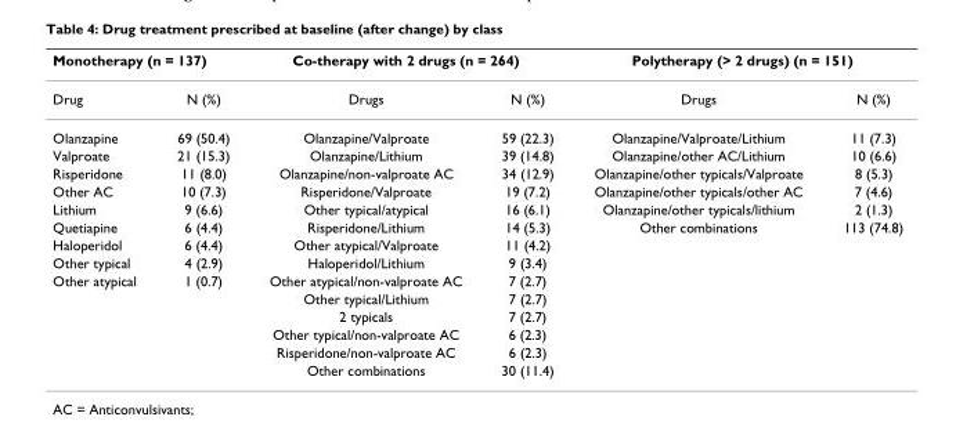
<table><thead><tr><td colspan="2">Monotherapy (n = 137)</td><td colspan="2">Co-therapy with 2 drugs (n = 264)</td><td colspan="2">Polytherapy (&gt; 2 drugs) (n = 151)</td></tr><tr><td>Drug</td><td>N (%)</td><td>Drugs</td><td>N (%)</td><td>Drugs</td><td>N (%)</td></tr></thead><tbody><tr><td>Olanzapine</td><td>69 (50.4)</td><td>Olanzapine/Valproate</td><td>59 (22.3)</td><td>Olanzapine/Valproate/Lithium</td><td>11 (7.3)</td></tr><tr><td>Valproate</td><td>21 (15.3)</td><td>Olanzapine/Lithium</td><td>39 (14.8)</td><td>Olanzapine/other AC/Lithium</td><td>10 (6.6)</td></tr><tr><td>Risperidone</td><td>11 (8.0)</td><td>Olanzapine/non-valproate AC</td><td>34 (12.9)</td><td>Olanzapine/other typicals/Valproate</td><td>8 (5.3)</td></tr><tr><td>Other AC</td><td>10 (7.3)</td><td>Risperidone/Valproate</td><td>19 (7.2)</td><td>Olanzapine/other typicals/other AC</td><td>7 (4.6)</td></tr><tr><td>Lithium</td><td>9 (6.6)</td><td>Other typical/atypical</td><td>16 (6.1)</td><td>Olanzapine/other typicals/lithium</td><td>2 (1.3)</td></tr><tr><td>Quetiapine</td><td>6 (4.4)</td><td>Risperidone/Lithium</td><td>14 (5.3)</td><td>Other combinations</td><td>113 (74.8)</td></tr><tr><td>Haloperidol</td><td>6 (4.4)</td><td>Other atypical/Valproate</td><td>11 (4.2)</td><td></td><td></td></tr><tr><td>Other typical</td><td>4 (2.9)</td><td>Haloperidol/Lithium</td><td>9 (3.4)</td><td></td><td></td></tr><tr><td rowspan="6">Other atypical</td><td>1 (0.7)</td><td>Other atypical/non-valproate AC</td><td>7 (2.7)</td><td></td><td></td></tr><tr><td></td><td>Other typical/Lithium</td><td>7 (2.7)</td><td></td><td></td></tr><tr><td></td><td>2 typicals</td><td>7 (2.7)</td><td></td><td></td></tr><tr><td></td><td>Other typical/non-valproate AC</td><td>6 (2.3)</td><td></td><td></td></tr><tr><td></td><td>Risperidone/non-valproate AC</td><td>6 (2.3)</td><td></td><td></td></tr><tr><td></td><td>Other combinations</td><td>30 (11.4)</td><td></td><td></td></tr></tbody></table>